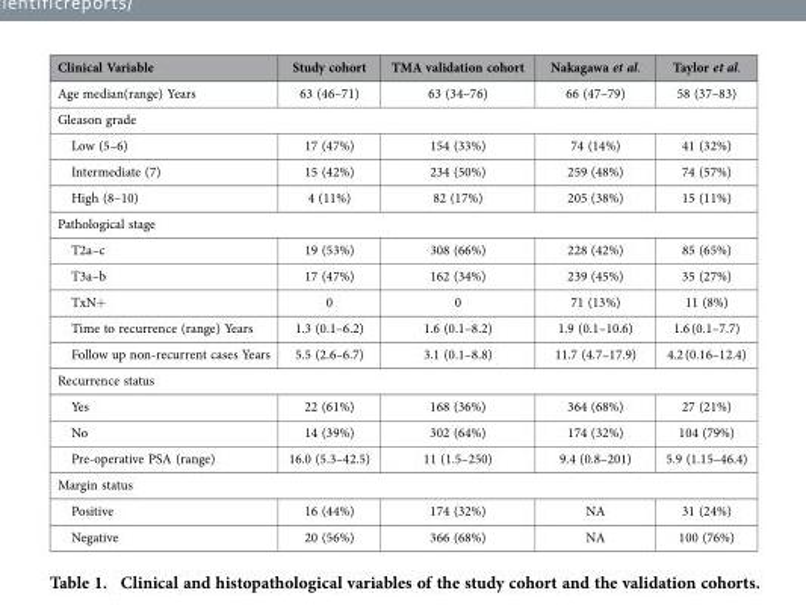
<table><thead><tr><td>Clinical Variable</td><td>Study cohort</td><td>TMA validation cohort</td><td>Nakagawa et al.</td><td>Taylor et al.</td></tr></thead><tbody><tr><td>Age median(range) Years</td><td>63 (46–71)</td><td>63 (34–76)</td><td>66 (47–79)</td><td>58 (37–83)</td></tr><tr><td colspan="5">Gleason grade</td></tr><tr><td>Low (5–6)</td><td>17 (47%)</td><td>154 (33%)</td><td>74 (14%)</td><td>41 (32%)</td></tr><tr><td>Intermediate (7)</td><td>15 (42%)</td><td>234 (50%)</td><td>259 (48%)</td><td>74 (57%)</td></tr><tr><td>High (8–10)</td><td>4 (11%)</td><td>82 (17%)</td><td>205 (38%)</td><td>15 (11%)</td></tr><tr><td colspan="5">Pathological stage</td></tr><tr><td>T2a–c</td><td>19 (53%)</td><td>308 (66%)</td><td>228 (42%)</td><td>85 (65%)</td></tr><tr><td>T3a–b</td><td>17 (47%)</td><td>162 (34%)</td><td>239 (45%)</td><td>35 (27%)</td></tr><tr><td>TxN+</td><td>0</td><td>0</td><td>71 (13%)</td><td>11 (8%)</td></tr><tr><td>Time to recurrence (range) Years</td><td>1.3 (0.1–6.2)</td><td>1.6 (0.1–8.2)</td><td>1.9 (0.1–10.6)</td><td>1.6 (0.1–7.7)</td></tr><tr><td>Follow up non-recurrent cases Years</td><td>5.5 (2.6–6.7)</td><td>3.1 (0.1–8.8)</td><td>11.7 (4.7–17.9)</td><td>4.2 (0.16–12.4)</td></tr><tr><td colspan="5">Recurrence status</td></tr><tr><td>Yes</td><td>22 (61%)</td><td>168 (36%)</td><td>364 (68%)</td><td>27 (21%)</td></tr><tr><td>No</td><td>14 (39%)</td><td>302 (64%)</td><td>174 (32%)</td><td>104 (79%)</td></tr><tr><td>Pre-operative PSA (range)</td><td>16.0 (5.3–42.5)</td><td>11 (1.5–250)</td><td>9.4 (0.8–201)</td><td>5.9 (1.15–46.4)</td></tr><tr><td colspan="5">Margin status</td></tr><tr><td>Positive</td><td>16 (44%)</td><td>174 (32%)</td><td>NA</td><td>31 (24%)</td></tr><tr><td>Negative</td><td>20 (56%)</td><td>366 (68%)</td><td>NA</td><td>100 (76%)</td></tr></tbody></table>